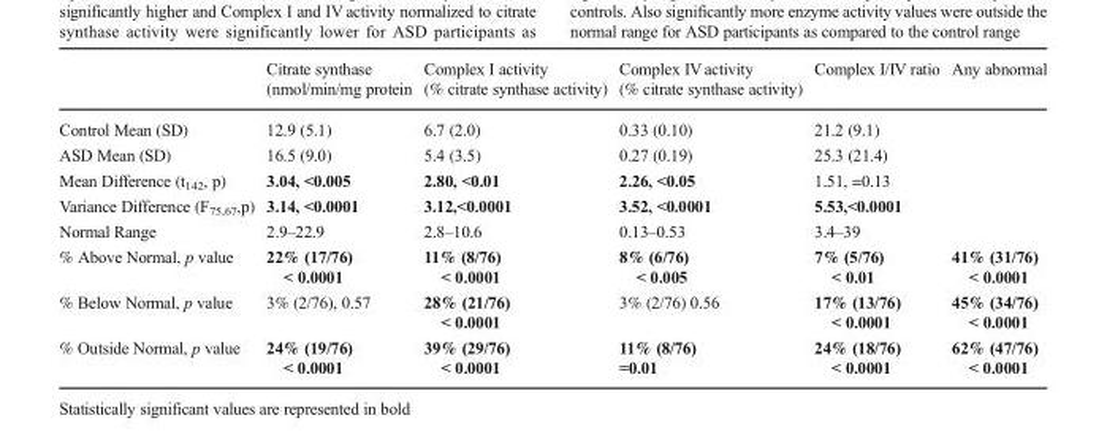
<table><thead><tr><td></td><td>Citrate synthase (nmol/min/mg protein</td><td>Complex I activity (% citrate synthase activity)</td><td>Complex IV activity (% citrate synthase activity)</td><td>Complex I/IV ratio</td><td>Any abnormal</td></tr></thead><tbody><tr><td>Control Mean (SD)</td><td>12.9 (5.1)</td><td>6.7 (2.0)</td><td>0.33 (0.10)</td><td>21.2 (9.1)</td><td></td></tr><tr><td>ASD Mean (SD)</td><td>16.5 (9.0)</td><td>5.4 (3.5)</td><td>0.27 (0.19)</td><td>25.3 (21.4)</td><td></td></tr><tr><td>Mean Difference (t<sub>142</sub>, p)</td><td>3.04, &lt;0.005</td><td>2.80, &lt;0.01</td><td>2.26, &lt;0.05</td><td>1.51, =0.13</td><td></td></tr><tr><td>Variance Difference (F<sub>75,67</sub>,p)</td><td>3.14, &lt;0.0001</td><td>3.12,&lt;0.0001</td><td>3.52, &lt;0.0001</td><td>5.53,&lt;0.0001</td><td></td></tr><tr><td>Normal Range</td><td>2.9–22.9</td><td>2.8–10.6</td><td>0.13–0.53</td><td>3.4–39</td><td></td></tr><tr><td>% Above Normal, p value</td><td>22% (17/76) &lt; 0.0001</td><td>11% (8/76) &lt; 0.0001</td><td>8% (6/76) &lt; 0.005</td><td>7% (5/76) &lt; 0.01</td><td>41% (31/76) &lt; 0.0001</td></tr><tr><td>% Below Normal, p value</td><td>3% (2/76), 0.57</td><td>28% (21/76) &lt; 0.0001</td><td>3% (2/76) 0.56</td><td>17% (13/76) &lt; 0.0001</td><td>45% (34/76) &lt; 0.0001</td></tr><tr><td>% Outside Normal, p value</td><td>24% (19/76) &lt; 0.0001</td><td>39% (29/76) &lt; 0.0001</td><td>11% (8/76) =0.01</td><td>24% (18/76) &lt; 0.0001</td><td>62% (47/76) &lt; 0.0001</td></tr></tbody></table>